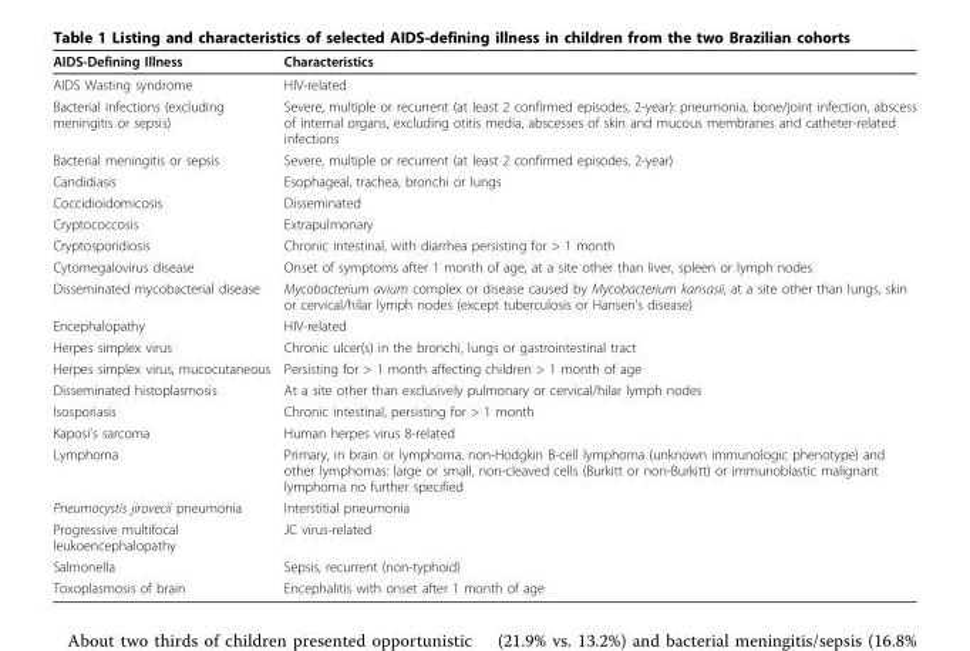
<table><thead><tr><td>AIDS-Defining Illness</td><td>Characteristics</td></tr></thead><tbody><tr><td>AIDS Wasting syndrome</td><td>HIV-related</td></tr><tr><td>Bacterial infections (excluding meningitis or sepsis)</td><td>Severe, multiple or recurrent (at least 2 confirmed episodes, 2-year): pneumonia, bone/joint infection, abscess of internal organs, excluding otitis media, abscesses of skin and mucous membranes and catheter-related infections</td></tr><tr><td>Bacterial meningitis or sepsis</td><td>Severe, multiple or recurrent (at least 2 confirmed episodes, 2-year)</td></tr><tr><td>Candidiasis</td><td>Esophageal, trachea, bronchi or lungs</td></tr><tr><td>Coccidioidomicosis</td><td>Disseminated</td></tr><tr><td>Cryptococcosis</td><td>Extrapulmonary</td></tr><tr><td>Cryptosporidiosis</td><td>Chronic intestinal, with diarrhea persisting for &gt; 1 month</td></tr><tr><td>Cytomegalovirus disease</td><td>Onset of symptoms after 1 month of age, at a site other than liver, spleen or lymph nodes</td></tr><tr><td>Disseminated mycobacterial disease</td><td>Mycobacterium avium complex or disease caused by Mycobacterium kansasii, at a site other than lungs, skin or cervical/hilar lymph nodes (except tuberculosis or Hansen’s disease)</td></tr><tr><td>Encephalopathy</td><td>HIV-related</td></tr><tr><td>Herpes simplex virus</td><td>Chronic ulcer(s) in the bronchi, lungs or gastrointestinal tract</td></tr><tr><td>Herpes simplex virus, mucocutaneous</td><td>Persisting for &gt; 1 month affecting children &gt; 1 month of age</td></tr><tr><td>Disseminated histoplasmosis</td><td>At a site other than exclusively pulmonary or cervical/hilar lymph nodes</td></tr><tr><td>Isosporiasis</td><td>Chronic intestinal, persisting for &gt; 1 month</td></tr><tr><td>Kaposi’s sarcoma</td><td>Human herpes virus 8-related</td></tr><tr><td>Lymphoma</td><td>Primary, in brain or lymphoma, non-Hodgkin B-cell lymphoma (unknown immunologic phenotype) and other lymphomas: large or small, non-cleaved cells (Burkitt or non-Burkitt) or immunoblastic malignant lymphoma no further specified</td></tr><tr><td>Pneumocystis jirovecii pneumonia</td><td>Interstitial pneumonia</td></tr><tr><td>Progressive multifocal leukoencephalopathy</td><td>JC virus-related</td></tr><tr><td>Salmonella</td><td>Sepsis, recurrent (non-typhoid)</td></tr><tr><td>Toxoplasmosis of brain</td><td>Encephalitis with onset after 1 month of age</td></tr></tbody></table>